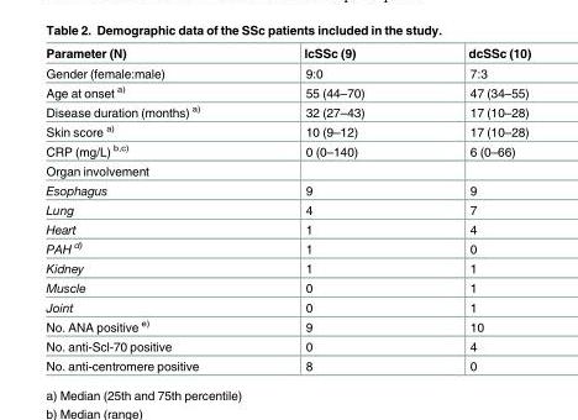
<table><thead><tr><td>Parameter (N)</td><td>lcSSc (9)</td><td>dcSSc (10)</td></tr></thead><tbody><tr><td>Gender (female:male)</td><td>9:0</td><td>7:3</td></tr><tr><td>Age at onset <sup>a)</sup></td><td>55 (44–70)</td><td>47 (34–55)</td></tr><tr><td>Disease duration (months) <sup>a)</sup></td><td>32 (27–43)</td><td>17 (10–28)</td></tr><tr><td>Skin score <sup>a)</sup></td><td>10 (9–12)</td><td>17 (10–28)</td></tr><tr><td>CRP (mg/L) <sup>b,c)</sup></td><td>0 (0–140)</td><td>6 (0–66)</td></tr><tr><td colspan="3">Organ involvement</td></tr><tr><td>Esophagus</td><td>9</td><td>9</td></tr><tr><td>Lung</td><td>4</td><td>7</td></tr><tr><td>Heart</td><td>1</td><td>4</td></tr><tr><td>PAH <sup>d)</sup></td><td>1</td><td>0</td></tr><tr><td>Kidney</td><td>1</td><td>1</td></tr><tr><td>Muscle</td><td>0</td><td>1</td></tr><tr><td>Joint</td><td>0</td><td>1</td></tr><tr><td>No. ANA positive <sup>e)</sup></td><td>9</td><td>10</td></tr><tr><td>No. anti-Scl-70 positive</td><td>0</td><td>4</td></tr><tr><td>No. anti-centromere positive</td><td>8</td><td>0</td></tr></tbody></table>